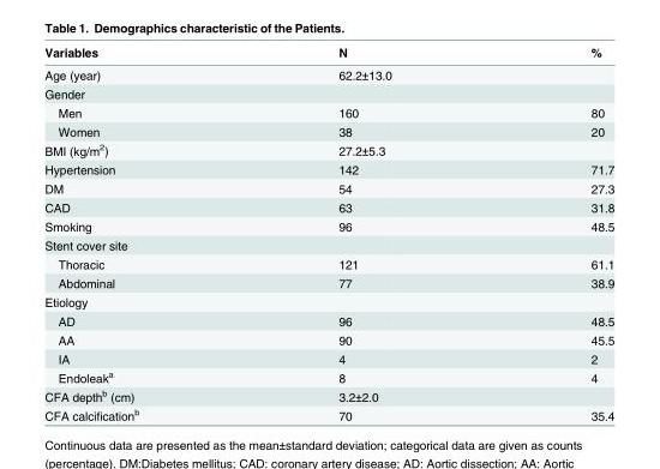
<table><thead><tr><td>Variables</td><td>N</td><td>%</td></tr></thead><tbody><tr><td>Age (year)</td><td>62.2±13.0</td><td></td></tr><tr><td colspan="3">Gender</td></tr><tr><td>Men</td><td>160</td><td>80</td></tr><tr><td>Women</td><td>38</td><td>20</td></tr><tr><td>BMI (kg/m<sup>2</sup>)</td><td>27.2±5.3</td><td></td></tr><tr><td>Hypertension</td><td>142</td><td>71.7</td></tr><tr><td>DM</td><td>54</td><td>27.3</td></tr><tr><td>CAD</td><td>63</td><td>31.8</td></tr><tr><td>Smoking</td><td>96</td><td>48.5</td></tr><tr><td colspan="3">Stent cover site</td></tr><tr><td>Thoracic</td><td>121</td><td>61.1</td></tr><tr><td>Abdominal</td><td>77</td><td>38.9</td></tr><tr><td colspan="3">Etiology</td></tr><tr><td>AD</td><td>96</td><td>48.5</td></tr><tr><td>AA</td><td>90</td><td>45.5</td></tr><tr><td>IA</td><td>4</td><td>2</td></tr><tr><td>Endoleak<sup>a</sup></td><td>8</td><td>4</td></tr><tr><td>CFA depth<sup>b</sup> (cm)</td><td>3.2±2.0</td><td></td></tr><tr><td>CFA calcification<sup>b</sup></td><td>70</td><td>35.4</td></tr></tbody></table>